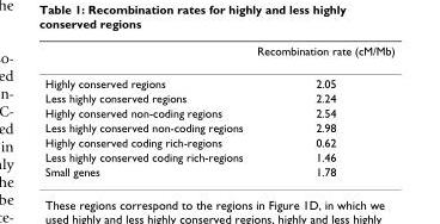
<table><thead><tr><td></td><td>Recombination rate (cM/Mb)</td></tr></thead><tbody><tr><td>Highly conserved regions</td><td>2.05</td></tr><tr><td>Less highly conserved regions</td><td>2.24</td></tr><tr><td>Highly conserved non-coding regions</td><td>2.54</td></tr><tr><td>Less highly conserved non-coding regions</td><td>2.98</td></tr><tr><td>Highly conserved coding rich-regions</td><td>0.62</td></tr><tr><td>Less highly conserved coding rich-regions</td><td>1.46</td></tr><tr><td>Small genes</td><td>1.78</td></tr></tbody></table>